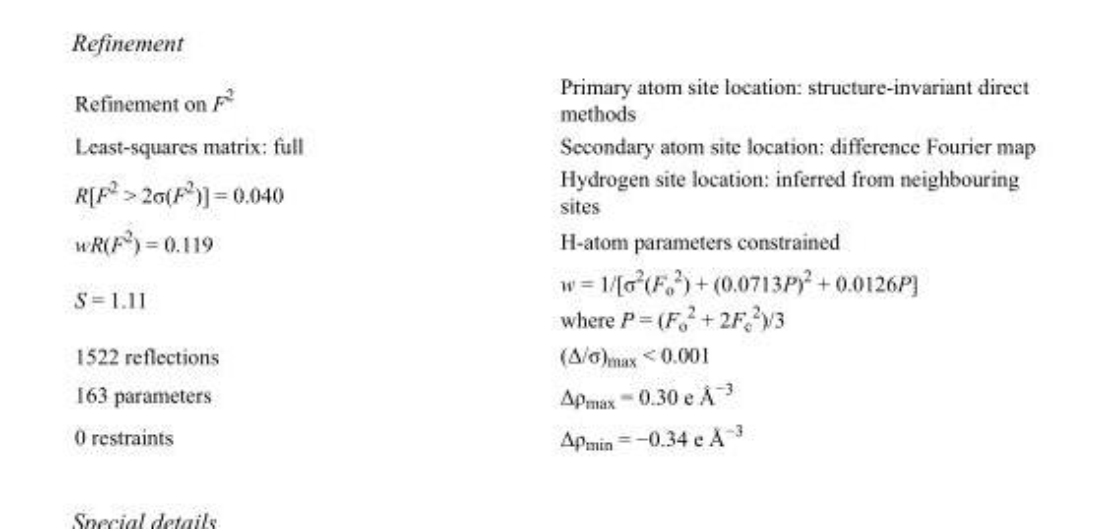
<table><tbody><tr><td>Refinement on F<sup>2</sup></td><td>Primary atom site location: structure-invariant direct methods</td></tr><tr><td>Least-squares matrix: full</td><td>Secondary atom site location: difference Fourier map</td></tr><tr><td>R[F<sup>2</sup> &gt; 2σ(F<sup>2</sup>)] = 0.040</td><td>Hydrogen site location: inferred from neighbouring sites</td></tr><tr><td>wR(F<sup>2</sup>) = 0.119</td><td>H-atom parameters constrained</td></tr><tr><td>S = 1.11</td><td>w = 1/[σ<sup>2</sup>(F<sub>o</sub> <sup>2</sup>) + (0.0713P)<sup>2</sup> + 0.0126P] where P = (F<sub>o</sub> <sup>2</sup> + 2F<sub>c</sub> <sup>2</sup>)/3</td></tr><tr><td>1522 reflections</td><td>(Δ/σ)<sub>max</sub> &lt; 0.001</td></tr><tr><td>163 parameters</td><td>Δρ<sub>max</sub> = 0.30 e Å<sup>−3</sup></td></tr><tr><td>0 restraints</td><td>Δρ<sub>min</sub> = −0.34 e Å<sup>−3</sup></td></tr></tbody></table>